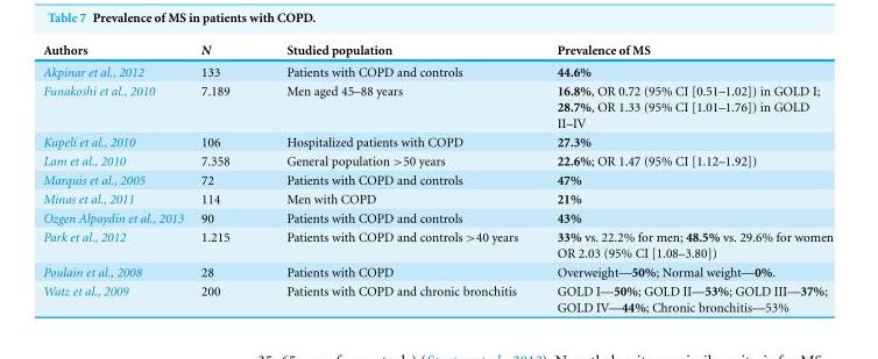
<table><thead><tr><td>Authors</td><td>N</td><td>Studied population</td><td>Prevalence of MS</td></tr></thead><tbody><tr><td>Akpinar et al., 2012</td><td>133</td><td>Patients with COPD and controls</td><td>44.6%</td></tr><tr><td>Funakoshi et al., 2010</td><td>7.189</td><td>Men aged 45–88 years</td><td>16.8%, OR 0.72 (95% CI [0.51–1.02]) in GOLD I; 28.7%, OR 1.33 (95% CI [1.01–1.76]) in GOLD II–IV</td></tr><tr><td>Kupeli et al., 2010</td><td>106</td><td>Hospitalized patients with COPD</td><td>27.3%</td></tr><tr><td>Lam et al., 2010</td><td>7.358</td><td>General population &gt;50 years</td><td>22.6%; OR 1.47 (95% CI [1.12–1.92])</td></tr><tr><td>Marquis et al., 2005</td><td>72</td><td>Patients with COPD and controls</td><td>47%</td></tr><tr><td>Minas et al., 2011</td><td>114</td><td>Men with COPD</td><td>21%</td></tr><tr><td>Ozgen Alpaydin et al., 2013</td><td>90</td><td>Patients with COPD and controls</td><td>43%</td></tr><tr><td>Park et al., 2012</td><td>1.215</td><td>Patients with COPD and controls &gt;40 years</td><td>33% vs. 22.2% for men; 48.5% vs. 29.6% for women OR 2.03 (95% CI [1.08–3.80])</td></tr><tr><td>Poulain et al., 2008</td><td>28</td><td>Patients with COPD</td><td>Overweight—50%; Normal weight—0%.</td></tr><tr><td>Watz et al., 2009</td><td>200</td><td>Patients with COPD and chronic bronchitis</td><td>GOLD I—50%; GOLD II—53%; GOLD III—37%; GOLD IV—44%; Chronic bronchitis—53%</td></tr></tbody></table>